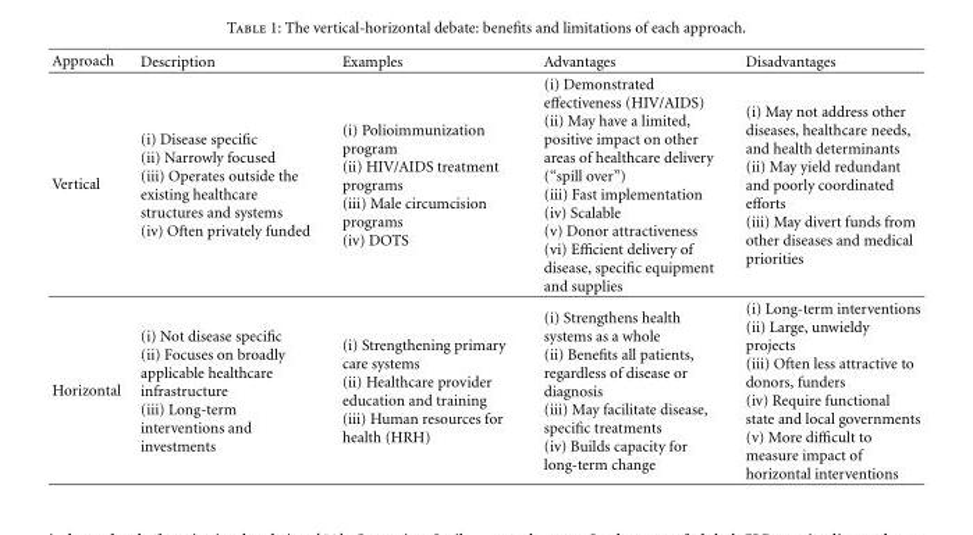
<table><thead><tr><td>Approach</td><td>Description</td><td>Examples</td><td>Advantages</td><td>Disadvantages</td></tr></thead><tbody><tr><td>Vertical</td><td>(i) Disease specific (ii) Narrowly focused (iii) Operates outside the existing healthcare structures and systems (iv) Often privately funded</td><td>(i) Polioimmunization program (ii) HIV/AIDS treatment programs (iii) Male circumcision programs (iv) DOTS</td><td>(i) Demonstrated effectiveness (HIV/AIDS) (ii) May have a limited, positive impact on other areas of healthcare delivery (“spill over”) (iii) Fast implementation (iv) Scalable (v) Donor attractiveness (vi) Efficient delivery of disease, specific equipment and supplies</td><td>(i) May not address other diseases, healthcare needs, and health determinants (ii) May yield redundant and poorly coordinated efforts (iii) May divert funds from other diseases and medical priorities</td></tr><tr><td>Horizontal</td><td>(i) Not disease specific (ii) Focuses on broadly applicable healthcare infrastructure (iii) Long-term interventions and investments</td><td>(i) Strengthening primary care systems (ii) Healthcare provider education and training (iii) Human resources for health (HRH)</td><td>(i) Strengthens health systems as a whole (ii) Benefits all patients, regardless of disease or diagnosis (iii) May facilitate disease, specific treatments (iv) Builds capacity for long-term change</td><td>(i) Long-term interventions (ii) Large, unwieldy projects (iii) Often less attractive to donors, funders (iv) Require functional state and local governments (v) More difficult to measure impact of horizontal interventions</td></tr></tbody></table>